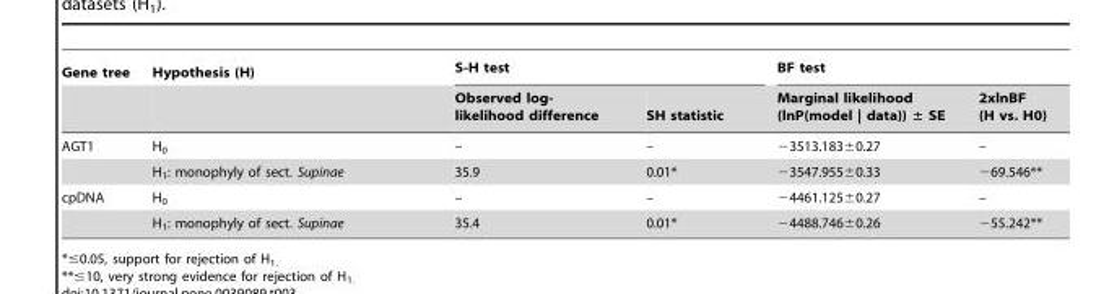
<table><thead><tr><td rowspan="2">Gene tree</td><td rowspan="2">Hypothesis (H)</td><td colspan="2">S-H test</td><td colspan="2">BF test</td></tr><tr><td>Observed log- likelihood difference</td><td>SH statistic</td><td>Marginal likelihood (lnP(model | data)) ± SE</td><td>2xlnBF (H vs. H0)</td></tr></thead><tbody><tr><td rowspan="2">AGT1</td><td>H<sub>0</sub></td><td>–</td><td>–</td><td>−3513.183±0.27</td><td>–</td></tr><tr><td>H<sub>1</sub>: monophyly of sect. Supinae</td><td>35.9</td><td>0.01*</td><td>−3547.955±0.33</td><td>−69.546**</td></tr><tr><td rowspan="2">cpDNA</td><td>H<sub>0</sub></td><td>–</td><td>–</td><td>−4461.125±0.27</td><td>–</td></tr><tr><td>H<sub>1</sub>: monophyly of sect. Supinae</td><td>35.4</td><td>0.01*</td><td>−4488.746±0.26</td><td>−55.242**</td></tr></tbody></table>